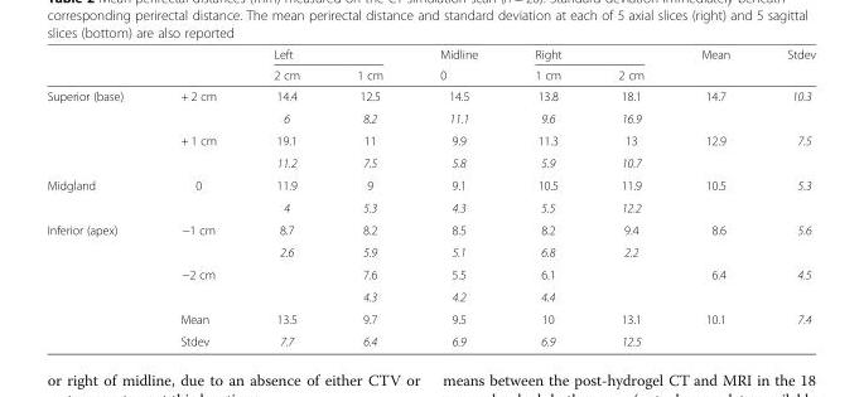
<table><thead><tr><td rowspan="2"></td><td rowspan="2"></td><td colspan="2">Left</td><td rowspan="2">Midline 0</td><td colspan="2">Right</td><td rowspan="2">Mean</td><td rowspan="2">Stdev</td></tr><tr><td>2 cm</td><td>1 cm</td><td>1 cm</td><td>2 cm</td></tr></thead><tbody><tr><td rowspan="4">Superior (base)</td><td rowspan="2">+ 2 cm</td><td>14.4</td><td>12.5</td><td>14.5</td><td>13.8</td><td>18.1</td><td>14.7</td><td>10.3</td></tr><tr><td>6</td><td>8.2</td><td>11.1</td><td>9.6</td><td>16.9</td><td></td><td></td></tr><tr><td rowspan="2">+ 1 cm</td><td>19.1</td><td>11</td><td>9.9</td><td>11.3</td><td>13</td><td>12.9</td><td>7.5</td></tr><tr><td>11.2</td><td>7.5</td><td>5.8</td><td>5.9</td><td>10.7</td><td></td><td></td></tr><tr><td rowspan="2">Midgland</td><td rowspan="2">0</td><td>11.9</td><td>9</td><td>9.1</td><td>10.5</td><td>11.9</td><td>10.5</td><td>5.3</td></tr><tr><td>4</td><td>5.3</td><td>4.3</td><td>5.5</td><td>12.2</td><td></td><td></td></tr><tr><td rowspan="6">Inferior (apex)</td><td rowspan="2">−1 cm</td><td>8.7</td><td>8.2</td><td>8.5</td><td>8.2</td><td>9.4</td><td>8.6</td><td>5.6</td></tr><tr><td>2.6</td><td>5.9</td><td>5.1</td><td>6.8</td><td>2.2</td><td></td><td></td></tr><tr><td rowspan="2">−2 cm</td><td></td><td>7.6</td><td>5.5</td><td>6.1</td><td></td><td>6.4</td><td>4.5</td></tr><tr><td></td><td>4.3</td><td>4.2</td><td>4.4</td><td></td><td></td><td></td></tr><tr><td>Mean</td><td>13.5</td><td>9.7</td><td>9.5</td><td>10</td><td>13.1</td><td>10.1</td><td>7.4</td></tr><tr><td>Stdev</td><td>7.7</td><td>6.4</td><td>6.9</td><td>6.9</td><td>12.5</td><td></td><td></td></tr></tbody></table>